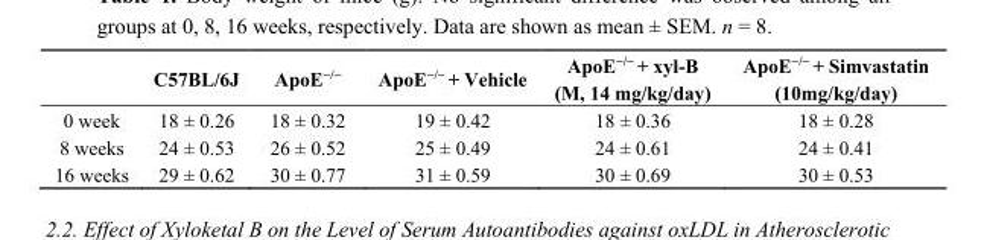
<table><thead><tr><td></td><td>C57BL/6J</td><td>ApoE<sup>−/−</sup></td><td>ApoE<sup>−/−</sup> + Vehicle</td><td>ApoE<sup>−/−</sup> + xyl-B (M, 14 mg/kg/day)</td><td>ApoE<sup>−/−</sup> + Simvastatin (10mg/kg/day)</td></tr></thead><tbody><tr><td>0 week</td><td>18 ± 0.26</td><td>18 ± 0.32</td><td>19 ± 0.42</td><td>18 ± 0.36</td><td>18 ± 0.28</td></tr><tr><td>8 weeks</td><td>24 ± 0.53</td><td>26 ± 0.52</td><td>25 ± 0.49</td><td>24 ± 0.61</td><td>24 ± 0.41</td></tr><tr><td>16 weeks</td><td>29 ± 0.62</td><td>30 ± 0.77</td><td>31 ± 0.59</td><td>30 ± 0.69</td><td>30 ± 0.53</td></tr></tbody></table>